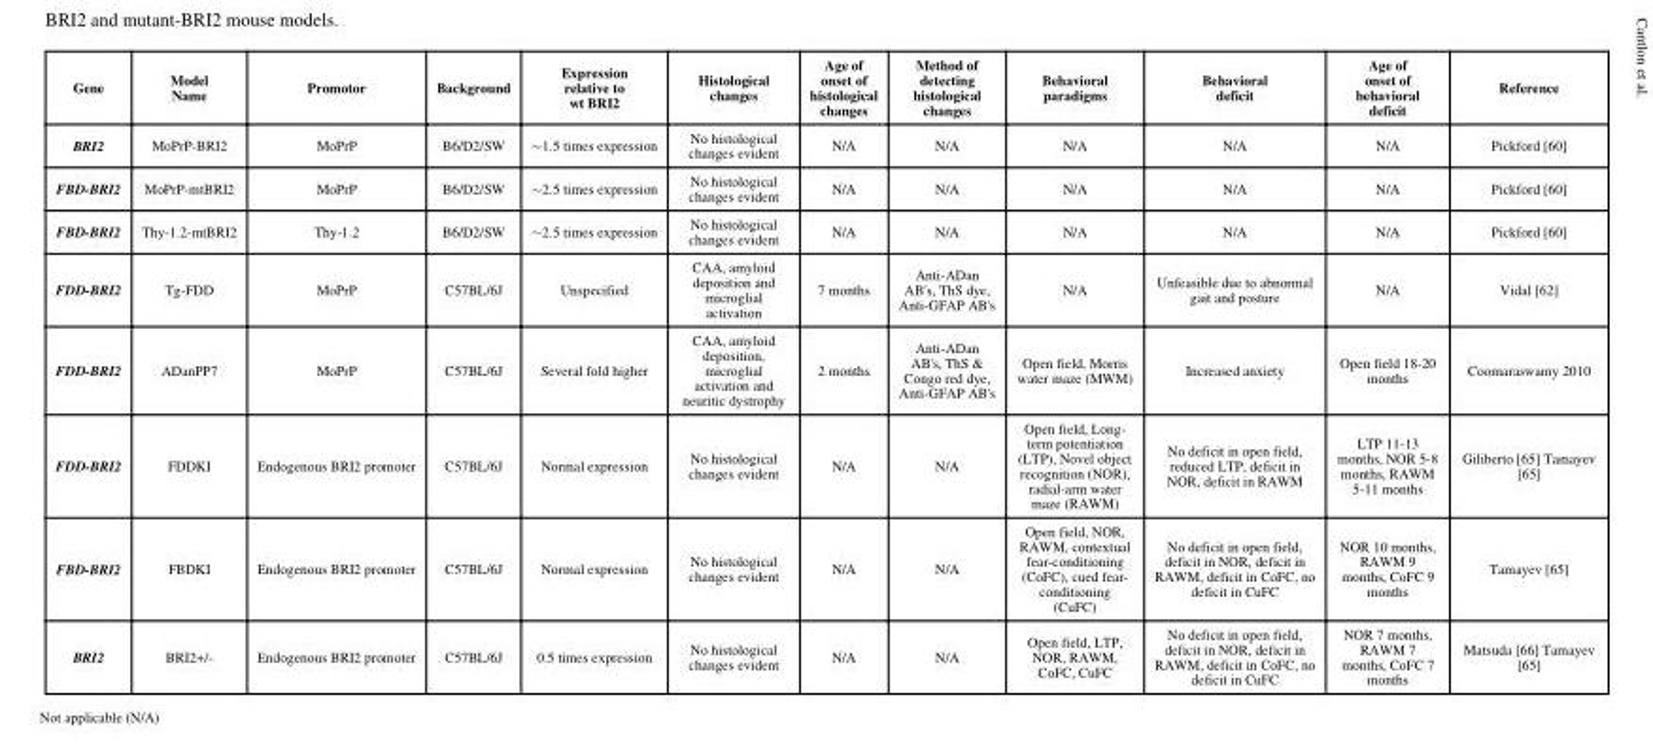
<table><thead><tr><td>Gene</td><td>Model Name</td><td>Promotor</td><td>Background</td><td>Expression relative to wt BRI2</td><td>Histological changes</td><td>Age of onset of histological changes</td><td>Method of detecting histological changes</td><td>Behavioral paradigms</td><td>Behavioral deficit</td><td>Age of onset of behavioral deficit</td><td>Reference</td></tr></thead><tbody><tr><td>BRI2</td><td>MoPrP-BRI2</td><td>MoPrP</td><td>B6/D2/SW</td><td>∼1.5 times expression</td><td>No histological changes evident</td><td>N/A</td><td>N/A</td><td>N/A</td><td>N/A</td><td>N/A</td><td>Pickford [60]</td></tr><tr><td>FBD-BRI2</td><td>MoPrP-mtBRI2</td><td>MoPrP</td><td>B6/D2/SW</td><td>∼2.5 times expression</td><td>No histological changes evident</td><td>N/A</td><td>N/A</td><td>N/A</td><td>N/A</td><td>N/A</td><td>Pickford [60]</td></tr><tr><td>FBD-BRI2</td><td>Thy-1.2-mtBRI2</td><td>Thy-1.2</td><td>B6/D2/SW</td><td>∼2.5 times expression</td><td>No histological changes evident</td><td>N/A</td><td>N/A</td><td>N/A</td><td>N/A</td><td>N/A</td><td>Pickford [60]</td></tr><tr><td>FDD-BRI2</td><td>Tg-FDD</td><td>MoPrP</td><td>C57BL/6J</td><td>Unspecified</td><td>CAA, amyloid deposition and microglial activation</td><td>7 months</td><td>Anti-ADan AB&#x27;s, ThS dye, Anti-GFAP AB&#x27;s</td><td>N/A</td><td>Unfeasible due to abnormal gait and posture</td><td>N/A</td><td>Vidal [62]</td></tr><tr><td>FDD-BRI2</td><td>ADanPP7</td><td>MoPrP</td><td>C57BL/6J</td><td>Several fold higher</td><td>CAA, amyloid deposition, microglial activation and neuritic dystrophy</td><td>2 months</td><td>Anti-ADan AB&#x27;s, ThS &amp; Congo red dye, Anti-GFAP AB&#x27;s</td><td>Open field, Morris water maze (MWM)</td><td>Increased anxiety</td><td>Open field 18-20 months</td><td>Coomaraswamy 2010</td></tr><tr><td>FDD-BRI2</td><td>FDDKI</td><td>Endogenous BRI2 promoter</td><td>C57BL/6J</td><td>Normal expression</td><td>No histological changes evident</td><td>N/A</td><td>N/A</td><td>Open field, Long- term potentiation (LTP), Novel object recognition (NOR), radial-arm water maze (RAWM)</td><td>No deficit in open field, reduced LTP, deficit in NOR, deficit in RAWM</td><td>LTP 11-13 months, NOR 5-8 months, RAWM 5-11 months</td><td>Giliberto [65] Tamayev [65]</td></tr><tr><td>FBD-BRI2</td><td>FBDKI</td><td>Endogenous BRI2 promoter</td><td>C57BL/6J</td><td>Normal expression</td><td>No histological changes evident</td><td>N/A</td><td>N/A</td><td>Open field, NOR, RAWM, contextual fear-conditioning (CoFC), cued fear- conditioning (CuFC)</td><td>No deficit in open field, deficit in NOR, deficit in RAWM, deficit in CoFC, no deficit in CuFC</td><td>NOR 10 months, RAWM 9 months, CoFC 9 months</td><td>Tamayev [65]</td></tr><tr><td>BRI2</td><td>BRI2+/-</td><td>Endogenous BRI2 promoter</td><td>C57BL/6J</td><td>0.5 times expression</td><td>No histological changes evident</td><td>N/A</td><td>N/A</td><td>Open field, LTP, NOR, RAWM, CoFC, CuFC</td><td>No deficit in open field, deficit in NOR, deficit in RAWM, deficit in CoFC, no deficit in CuFC</td><td>NOR 7 months, RAWM 7 months, CoFC 7 months</td><td>Matsuda [66] Tamayev [65]</td></tr></tbody></table>